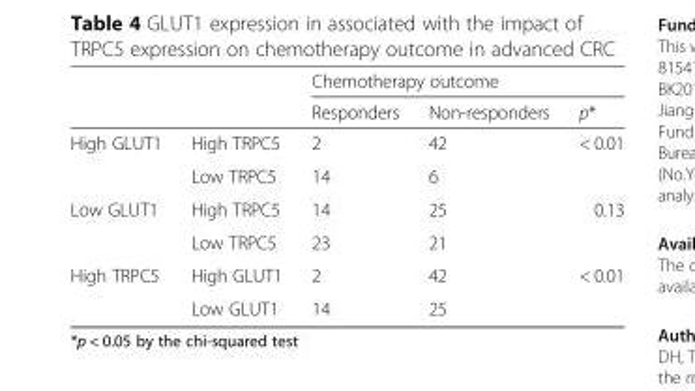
<table><thead><tr><td rowspan="2"></td><td rowspan="2"></td><td colspan="3">Chemotherapy outcome</td></tr><tr><td>Responders</td><td>Non-responders</td><td>p*</td></tr></thead><tbody><tr><td rowspan="2">High GLUT1</td><td>High TRPC5</td><td>2</td><td>42</td><td rowspan="2">&lt; 0.01</td></tr><tr><td>Low TRPC5</td><td>14</td><td>6</td></tr><tr><td rowspan="2">Low GLUT1</td><td>High TRPC5</td><td>14</td><td>25</td><td rowspan="2">0.13</td></tr><tr><td>Low TRPC5</td><td>23</td><td>21</td></tr><tr><td rowspan="2">High TRPC5</td><td>High GLUT1</td><td>2</td><td>42</td><td rowspan="2">&lt; 0.01</td></tr><tr><td>Low GLUT1</td><td>14</td><td>25</td></tr></tbody></table>